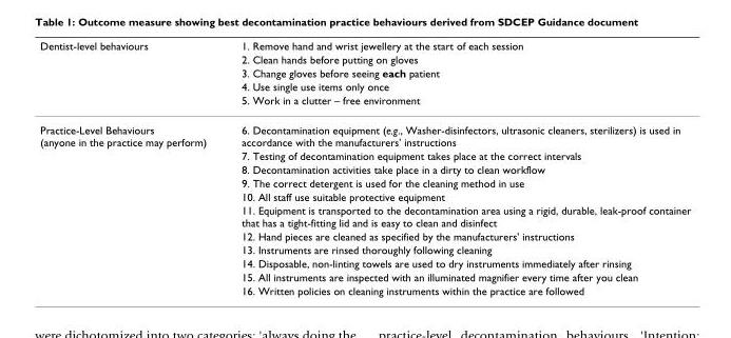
<table><thead><tr><td rowspan="5">Dentist-level behaviours</td><td rowspan="5">1. Remove hand and wrist jewellery at the start of each session 2. Clean hands before putting on gloves 3. Change gloves before seeing each patient 4. Use single use items only once 5. Work in a clutter – free environment</td></tr><tr></tr><tr></tr><tr></tr><tr></tr></thead><tbody><tr><td rowspan="11">Practice-Level Behaviours (anyone in the practice may perform)</td><td>6. Decontamination equipment (e.g., Washer-disinfectors, ultrasonic cleaners, sterilizers) is used in accordance with the manufacturers&#x27; instructions</td></tr><tr><td>7. Testing of decontamination equipment takes place at the correct intervals</td></tr><tr><td>8. Decontamination activities take place in a dirty to clean workflow</td></tr><tr><td>9. The correct detergent is used for the cleaning method in use</td></tr><tr><td>10. All staff use suitable protective equipment</td></tr><tr><td>11. Equipment is transported to the decontamination area using a rigid, durable, leak-proof container that has a tight-fitting lid and is easy to clean and disinfect</td></tr><tr><td>12. Hand pieces are cleaned as specified by the manufacturers&#x27; instructions</td></tr><tr><td>13. Instruments are rinsed thoroughly following cleaning</td></tr><tr><td>14. Disposable, non-linting towels are used to dry instruments immediately after rinsing</td></tr><tr><td>15. All instruments are inspected with an illuminated magnifier every time after you clean</td></tr><tr><td>16. Written policies on cleaning instruments within the practice are followed</td></tr></tbody></table>